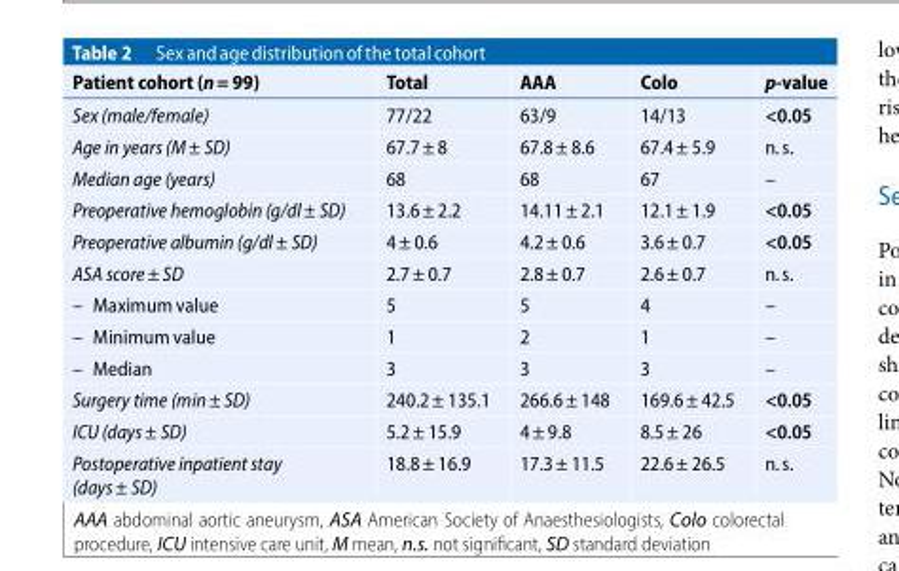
<table><thead><tr><td>Patient cohort (n= 99)</td><td>Total</td><td>AAA</td><td>Colo</td><td>p-value</td></tr></thead><tbody><tr><td>Sex (male/female)</td><td>77/22</td><td>63/9</td><td>14/13</td><td>&lt;0.05</td></tr><tr><td>Age in years (M± SD)</td><td>67.7± 8</td><td>67.8± 8.6</td><td>67.4± 5.9</td><td>n.s.</td></tr><tr><td>Median age (years)</td><td>68</td><td>68</td><td>67</td><td>–</td></tr><tr><td>Preoperative hemoglobin (g/dl± SD)</td><td>13.6± 2.2</td><td>14.11± 2.1</td><td>12.1± 1.9</td><td>&lt;0.05</td></tr><tr><td>Preoperative albumin (g/dl± SD)</td><td>4± 0.6</td><td>4.2± 0.6</td><td>3.6± 0.7</td><td>&lt;0.05</td></tr><tr><td>ASA score± SD</td><td>2.7± 0.7</td><td>2.8± 0.7</td><td>2.6± 0.7</td><td>n.s.</td></tr><tr><td>– Maximum value</td><td>5</td><td>5</td><td>4</td><td>–</td></tr><tr><td>– Minimum value</td><td>1</td><td>2</td><td>1</td><td>–</td></tr><tr><td>– Median</td><td>3</td><td>3</td><td>3</td><td>–</td></tr><tr><td>Surgery time (min± SD)</td><td>240.2± 135.1</td><td>266.6± 148</td><td>169.6± 42.5</td><td>&lt;0.05</td></tr><tr><td>ICU (days± SD)</td><td>5.2± 15.9</td><td>4± 9.8</td><td>8.5± 26</td><td>&lt;0.05</td></tr><tr><td>Postoperative inpatient stay (days± SD)</td><td>18.8± 16.9</td><td>17.3± 11.5</td><td>22.6± 26.5</td><td>n.s.</td></tr></tbody></table>